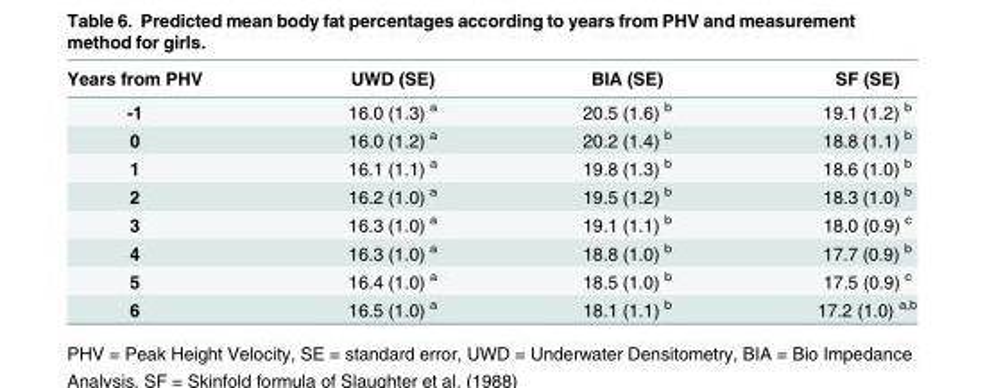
<table><thead><tr><td>Years from PHV</td><td>UWD (SE)</td><td>BIA (SE)</td><td>SF (SE)</td></tr></thead><tbody><tr><td>-1</td><td>16.0 (1.3) <sup>a</sup></td><td>20.5 (1.6) <sup>b</sup></td><td>19.1 (1.2) <sup>b</sup></td></tr><tr><td>0</td><td>16.0 (1.2) <sup>a</sup></td><td>20.2 (1.4) <sup>b</sup></td><td>18.8 (1.1) <sup>b</sup></td></tr><tr><td>1</td><td>16.1 (1.1) <sup>a</sup></td><td>19.8 (1.3) <sup>b</sup></td><td>18.6 (1.0) <sup>b</sup></td></tr><tr><td>2</td><td>16.2 (1.0) <sup>a</sup></td><td>19.5 (1.2) <sup>b</sup></td><td>18.3 (1.0) <sup>b</sup></td></tr><tr><td>3</td><td>16.3 (1.0) <sup>a</sup></td><td>19.1 (1.1) <sup>b</sup></td><td>18.0 (0.9) <sup>c</sup></td></tr><tr><td>4</td><td>16.3 (1.0) <sup>a</sup></td><td>18.8 (1.0) <sup>b</sup></td><td>17.7 (0.9) <sup>b</sup></td></tr><tr><td>5</td><td>16.4 (1.0) <sup>a</sup></td><td>18.5 (1.0) <sup>b</sup></td><td>17.5 (0.9) <sup>c</sup></td></tr><tr><td>6</td><td>16.5 (1.0) <sup>a</sup></td><td>18.1 (1.1) <sup>b</sup></td><td>17.2 (1.0) <sup>a,b</sup></td></tr></tbody></table>